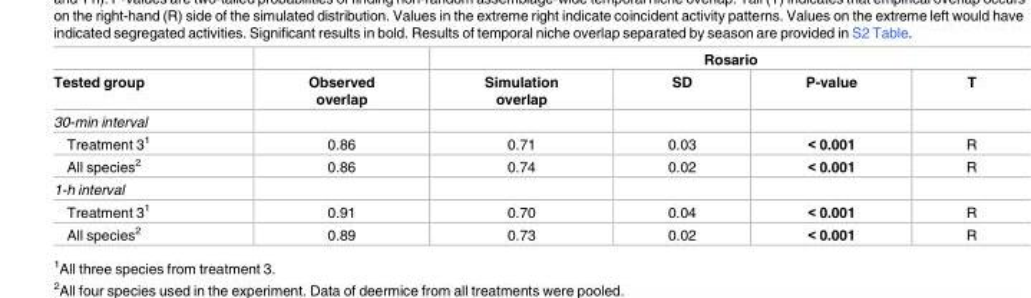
<table><thead><tr><td rowspan="2">Tested group</td><td rowspan="2">Observed overlap</td><td colspan="4">Rosario</td></tr><tr><td>Simulation overlap</td><td>SD</td><td>P-value</td><td>T</td></tr></thead><tbody><tr><td colspan="6">30-min interval</td></tr><tr><td>Treatment 3<sup>1</sup></td><td>0.86</td><td>0.71</td><td>0.03</td><td>&lt; 0.001</td><td>R</td></tr><tr><td>All species<sup>2</sup></td><td>0.86</td><td>0.74</td><td>0.02</td><td>&lt; 0.001</td><td>R</td></tr><tr><td colspan="6">1-h interval</td></tr><tr><td>Treatment 3<sup>1</sup></td><td>0.91</td><td>0.70</td><td>0.04</td><td>&lt; 0.001</td><td>R</td></tr><tr><td>All species<sup>2</sup></td><td>0.89</td><td>0.73</td><td>0.02</td><td>&lt; 0.001</td><td>R</td></tr></tbody></table>